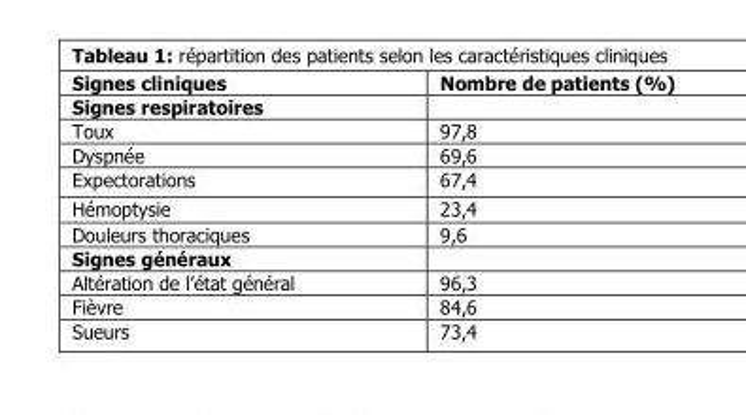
<table><thead><tr><td>Signes cliniques</td><td>Nombre de patients (%)</td></tr></thead><tbody><tr><td colspan="2">Signes respiratoires</td></tr><tr><td>Toux</td><td>97,8</td></tr><tr><td>Dyspnée</td><td>69,6</td></tr><tr><td>Expectorations</td><td>67,4</td></tr><tr><td>Hémoptysie</td><td>23,4</td></tr><tr><td>Douleurs thoraciques</td><td>9,6</td></tr><tr><td colspan="2">Signes généraux</td></tr><tr><td>Altération de l’état général</td><td>96,3</td></tr><tr><td>Fièvre</td><td>84,6</td></tr><tr><td>Sueurs</td><td>73,4</td></tr></tbody></table>